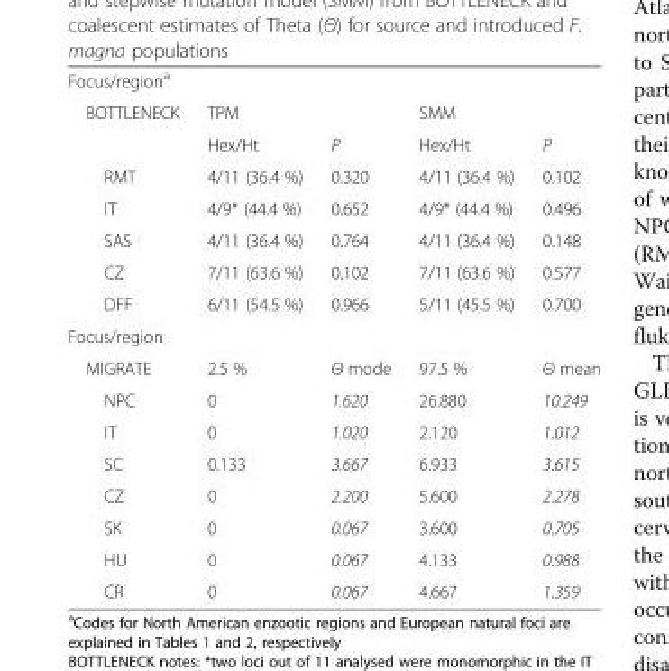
<table><tbody><tr><td colspan="5">Focus/region<sup>a</sup></td></tr><tr><td rowspan="2">BOTTLENECK</td><td colspan="2">TPM</td><td colspan="2">SMM</td></tr><tr><td>Hex/Ht</td><td>P</td><td>Hex/Ht</td><td>P</td></tr><tr><td>RMT</td><td>4/11 (36.4 %)</td><td>0.320</td><td>4/11 (36.4 %)</td><td>0.102</td></tr><tr><td>IT</td><td>4/9* (44.4 %)</td><td>0.652</td><td>4/9* (44.4 %)</td><td>0.496</td></tr><tr><td>SAS</td><td>4/11 (36.4 %)</td><td>0.764</td><td>4/11 (36.4 %)</td><td>0.148</td></tr><tr><td>CZ</td><td>7/11 (63.6 %)</td><td>0.102</td><td>7/11 (63.6 %)</td><td>0.577</td></tr><tr><td>DFF</td><td>6/11 (54.5 %)</td><td>0.966</td><td>5/11 (45.5 %)</td><td>0.700</td></tr><tr><td colspan="5">Focus/region</td></tr><tr><td>MIGRATE</td><td>2.5 %</td><td>Θ mode</td><td>97.5 %</td><td>Θ mean</td></tr><tr><td>NPC</td><td>0</td><td>1.620</td><td>26.880</td><td>10.249</td></tr><tr><td>IT</td><td>0</td><td>1.020</td><td>2.120</td><td>1.012</td></tr><tr><td>SC</td><td>0.133</td><td>3.667</td><td>6.933</td><td>3.615</td></tr><tr><td>CZ</td><td>0</td><td>2.200</td><td>5.600</td><td>2.278</td></tr><tr><td>SK</td><td>0</td><td>0.067</td><td>3.600</td><td>0.705</td></tr><tr><td>HU</td><td>0</td><td>0.067</td><td>4.133</td><td>0.988</td></tr><tr><td>CR</td><td>0</td><td>0.067</td><td>4.667</td><td>1.359</td></tr></tbody></table>